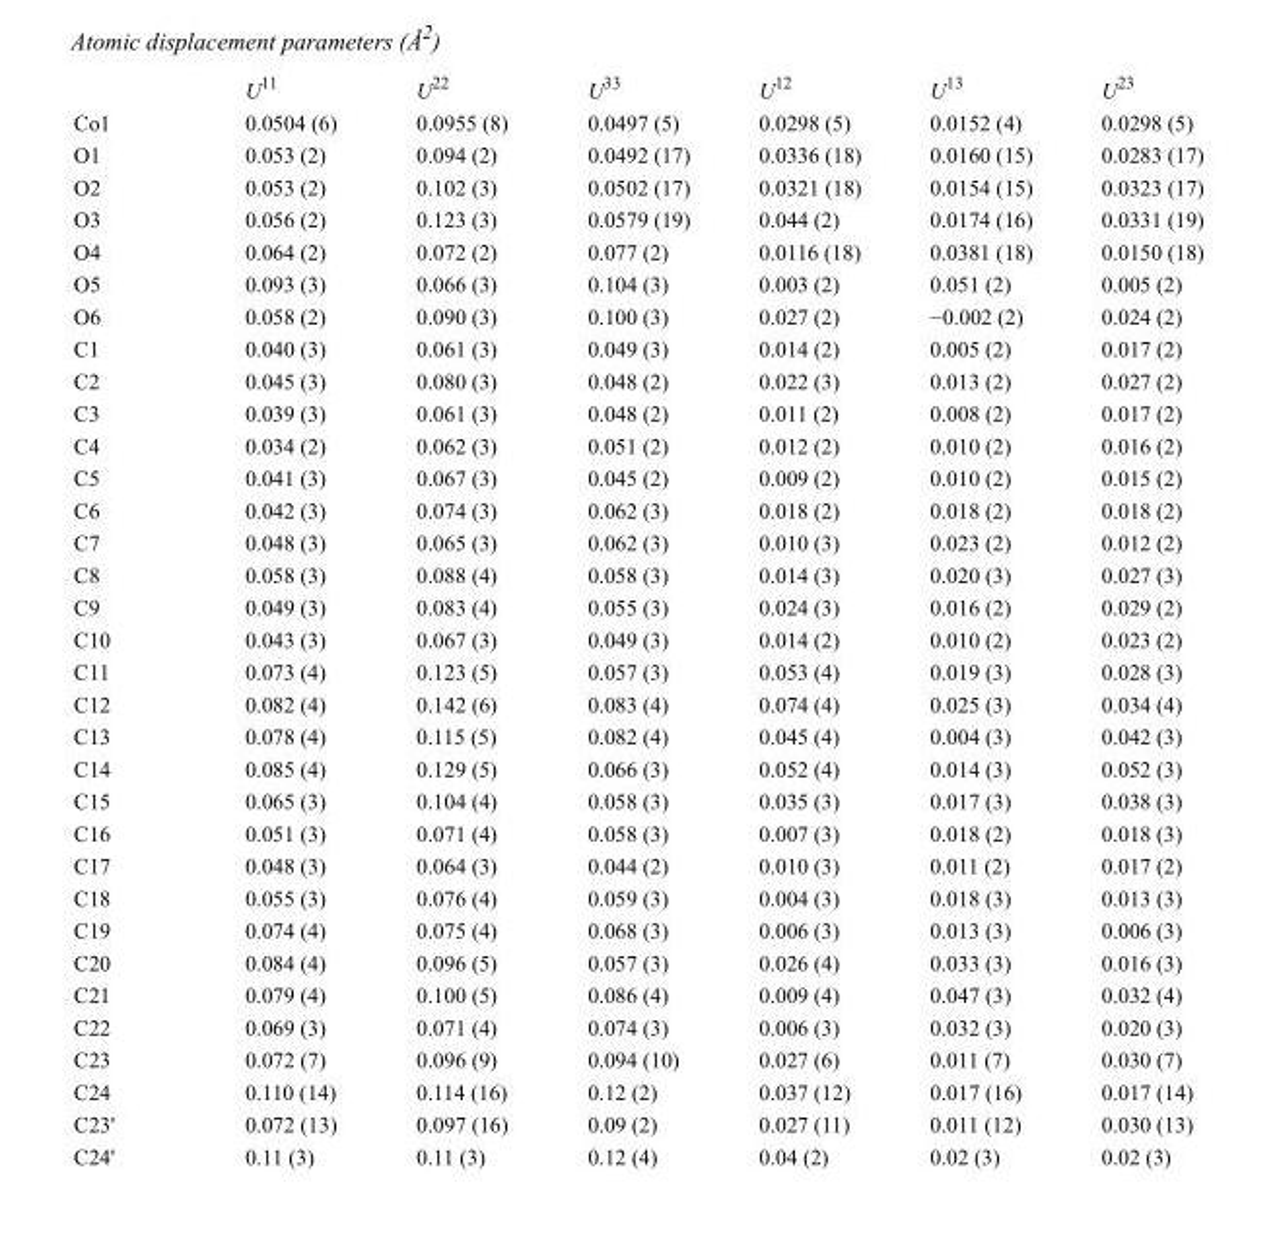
<table><thead><tr><td></td><td>U<sup>11</sup></td><td>U<sup>22</sup></td><td>U<sup>33</sup></td><td>U<sup>12</sup></td><td>U<sup>13</sup></td><td>U<sup>23</sup></td></tr></thead><tbody><tr><td>Co1</td><td>0.0504 (6)</td><td>0.0955 (8)</td><td>0.0497 (5)</td><td>0.0298 (5)</td><td>0.0152 (4)</td><td>0.0298 (5)</td></tr><tr><td>O1</td><td>0.053 (2)</td><td>0.094 (2)</td><td>0.0492 (17)</td><td>0.0336 (18)</td><td>0.0160 (15)</td><td>0.0283 (17)</td></tr><tr><td>O2</td><td>0.053 (2)</td><td>0.102 (3)</td><td>0.0502 (17)</td><td>0.0321 (18)</td><td>0.0154 (15)</td><td>0.0323 (17)</td></tr><tr><td>O3</td><td>0.056 (2)</td><td>0.123 (3)</td><td>0.0579 (19)</td><td>0.044 (2)</td><td>0.0174 (16)</td><td>0.0331 (19)</td></tr><tr><td>O4</td><td>0.064 (2)</td><td>0.072 (2)</td><td>0.077 (2)</td><td>0.0116 (18)</td><td>0.0381 (18)</td><td>0.0150 (18)</td></tr><tr><td>O5</td><td>0.093 (3)</td><td>0.066 (3)</td><td>0.104 (3)</td><td>0.003 (2)</td><td>0.051 (2)</td><td>0.005 (2)</td></tr><tr><td>O6</td><td>0.058 (2)</td><td>0.090 (3)</td><td>0.100 (3)</td><td>0.027 (2)</td><td>−0.002 (2)</td><td>0.024 (2)</td></tr><tr><td>C1</td><td>0.040 (3)</td><td>0.061 (3)</td><td>0.049 (3)</td><td>0.014 (2)</td><td>0.005 (2)</td><td>0.017 (2)</td></tr><tr><td>C2</td><td>0.045 (3)</td><td>0.080 (3)</td><td>0.048 (2)</td><td>0.022 (3)</td><td>0.013 (2)</td><td>0.027 (2)</td></tr><tr><td>C3</td><td>0.039 (3)</td><td>0.061 (3)</td><td>0.048 (2)</td><td>0.011 (2)</td><td>0.008 (2)</td><td>0.017 (2)</td></tr><tr><td>C4</td><td>0.034 (2)</td><td>0.062 (3)</td><td>0.051 (2)</td><td>0.012 (2)</td><td>0.010 (2)</td><td>0.016 (2)</td></tr><tr><td>C5</td><td>0.041 (3)</td><td>0.067 (3)</td><td>0.045 (2)</td><td>0.009 (2)</td><td>0.010 (2)</td><td>0.015 (2)</td></tr><tr><td>C6</td><td>0.042 (3)</td><td>0.074 (3)</td><td>0.062 (3)</td><td>0.018 (2)</td><td>0.018 (2)</td><td>0.018 (2)</td></tr><tr><td>C7</td><td>0.048 (3)</td><td>0.065 (3)</td><td>0.062 (3)</td><td>0.010 (3)</td><td>0.023 (2)</td><td>0.012 (2)</td></tr><tr><td>C8</td><td>0.058 (3)</td><td>0.088 (4)</td><td>0.058 (3)</td><td>0.014 (3)</td><td>0.020 (3)</td><td>0.027 (3)</td></tr><tr><td>C9</td><td>0.049 (3)</td><td>0.083 (4)</td><td>0.055 (3)</td><td>0.024 (3)</td><td>0.016 (2)</td><td>0.029 (2)</td></tr><tr><td>C10</td><td>0.043 (3)</td><td>0.067 (3)</td><td>0.049 (3)</td><td>0.014 (2)</td><td>0.010 (2)</td><td>0.023 (2)</td></tr><tr><td>C11</td><td>0.073 (4)</td><td>0.123 (5)</td><td>0.057 (3)</td><td>0.053 (4)</td><td>0.019 (3)</td><td>0.028 (3)</td></tr><tr><td>C12</td><td>0.082 (4)</td><td>0.142 (6)</td><td>0.083 (4)</td><td>0.074 (4)</td><td>0.025 (3)</td><td>0.034 (4)</td></tr><tr><td>C13</td><td>0.078 (4)</td><td>0.115 (5)</td><td>0.082 (4)</td><td>0.045 (4)</td><td>0.004 (3)</td><td>0.042 (3)</td></tr><tr><td>C14</td><td>0.085 (4)</td><td>0.129 (5)</td><td>0.066 (3)</td><td>0.052 (4)</td><td>0.014 (3)</td><td>0.052 (3)</td></tr><tr><td>C15</td><td>0.065 (3)</td><td>0.104 (4)</td><td>0.058 (3)</td><td>0.035 (3)</td><td>0.017 (3)</td><td>0.038 (3)</td></tr><tr><td>C16</td><td>0.051 (3)</td><td>0.071 (4)</td><td>0.058 (3)</td><td>0.007 (3)</td><td>0.018 (2)</td><td>0.018 (3)</td></tr><tr><td>C17</td><td>0.048 (3)</td><td>0.064 (3)</td><td>0.044 (2)</td><td>0.010 (3)</td><td>0.011 (2)</td><td>0.017 (2)</td></tr><tr><td>C18</td><td>0.055 (3)</td><td>0.076 (4)</td><td>0.059 (3)</td><td>0.004 (3)</td><td>0.018 (3)</td><td>0.013 (3)</td></tr><tr><td>C19</td><td>0.074 (4)</td><td>0.075 (4)</td><td>0.068 (3)</td><td>0.006 (3)</td><td>0.013 (3)</td><td>0.006 (3)</td></tr><tr><td>C20</td><td>0.084 (4)</td><td>0.096 (5)</td><td>0.057 (3)</td><td>0.026 (4)</td><td>0.033 (3)</td><td>0.016 (3)</td></tr><tr><td>C21</td><td>0.079 (4)</td><td>0.100 (5)</td><td>0.086 (4)</td><td>0.009 (4)</td><td>0.047 (3)</td><td>0.032 (4)</td></tr><tr><td>C22</td><td>0.069 (3)</td><td>0.071 (4)</td><td>0.074 (3)</td><td>0.006 (3)</td><td>0.032 (3)</td><td>0.020 (3)</td></tr><tr><td>C23</td><td>0.072 (7)</td><td>0.096 (9)</td><td>0.094 (10)</td><td>0.027 (6)</td><td>0.011 (7)</td><td>0.030 (7)</td></tr><tr><td>C24</td><td>0.110 (14)</td><td>0.114 (16)</td><td>0.12 (2)</td><td>0.037 (12)</td><td>0.017 (16)</td><td>0.017 (14)</td></tr><tr><td>C23&#x27;</td><td>0.072 (13)</td><td>0.097 (16)</td><td>0.09 (2)</td><td>0.027 (11)</td><td>0.011 (12)</td><td>0.030 (13)</td></tr><tr><td>C24&#x27;</td><td>0.11 (3)</td><td>0.11 (3)</td><td>0.12 (4)</td><td>0.04 (2)</td><td>0.02 (3)</td><td>0.02 (3)</td></tr></tbody></table>